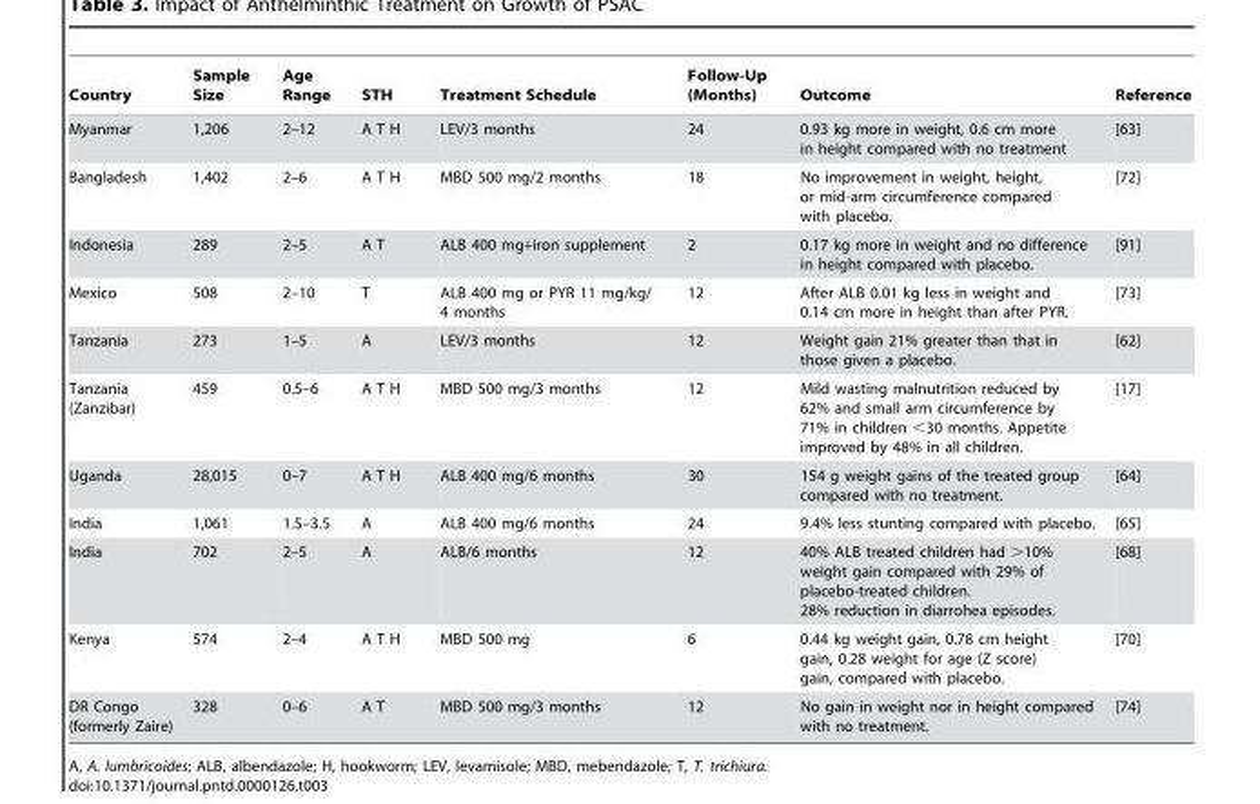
<table><thead><tr><td>Country</td><td>Sample Size</td><td>Age Range</td><td>STH</td><td>Treatment Schedule</td><td>Follow-Up (Months)</td><td>Outcome</td><td>Reference</td></tr></thead><tbody><tr><td>Myanmar</td><td>1,206</td><td>2–12</td><td>A T H</td><td>LEV/3 months</td><td>24</td><td>0.93 kg more in weight, 0.6 cm more in height compared with no treatment</td><td>[63]</td></tr><tr><td>Bangladesh</td><td>1,402</td><td>2–6</td><td>A T H</td><td>MBD 500 mg/2 months</td><td>18</td><td>No improvement in weight, height, or mid-arm circumference compared with placebo.</td><td>[72]</td></tr><tr><td>Indonesia</td><td>289</td><td>2–5</td><td>A T</td><td>ALB 400 mg+iron supplement</td><td>2</td><td>0.17 kg more in weight and no difference in height compared with placebo.</td><td>[91]</td></tr><tr><td>Mexico</td><td>508</td><td>2–10</td><td>T</td><td>ALB 400 mg or PYR 11 mg/kg/ 4 months</td><td>12</td><td>After ALB 0.01 kg less in weight and 0.14 cm more in height than after PYR.</td><td>[73]</td></tr><tr><td>Tanzania</td><td>273</td><td>1–5</td><td>A</td><td>LEV/3 months</td><td>12</td><td>Weight gain 21% greater than that in those given a placebo.</td><td>[62]</td></tr><tr><td>Tanzania (Zanzibar)</td><td>459</td><td>0.5–6</td><td>A T H</td><td>MBD 500 mg/3 months</td><td>12</td><td>Mild wasting malnutrition reduced by 62% and small arm circumference by 71% in children &lt;30 months. Appetite improved by 48% in all children.</td><td>[17]</td></tr><tr><td>Uganda</td><td>28,015</td><td>0–7</td><td>A T H</td><td>ALB 400 mg/6 months</td><td>30</td><td>154 g weight gains of the treated group compared with no treatment.</td><td>[64]</td></tr><tr><td>India</td><td>1,061</td><td>1.5–3.5</td><td>A</td><td>ALB 400 mg/6 months</td><td>24</td><td>9.4% less stunting compared with placebo.</td><td>[65]</td></tr><tr><td>India</td><td>702</td><td>2–5</td><td>A</td><td>ALB/6 months</td><td>12</td><td>40% ALB treated children had &gt;10% weight gain compared with 29% of placebo-treated children. 28% reduction in diarrohea episodes.</td><td>[68]</td></tr><tr><td>Kenya</td><td>574</td><td>2–4</td><td>A T H</td><td>MBD 500 mg</td><td>6</td><td>0.44 kg weight gain, 0.78 cm height gain, 0.28 weight for age (Z score) gain, compared with placebo.</td><td>[70]</td></tr><tr><td>DR Congo (formerly Zaire)</td><td>328</td><td>0–6</td><td>A T</td><td>MBD 500 mg/3 months</td><td>12</td><td>No gain in weight nor in height compared with no treatment.</td><td>[74]</td></tr></tbody></table>